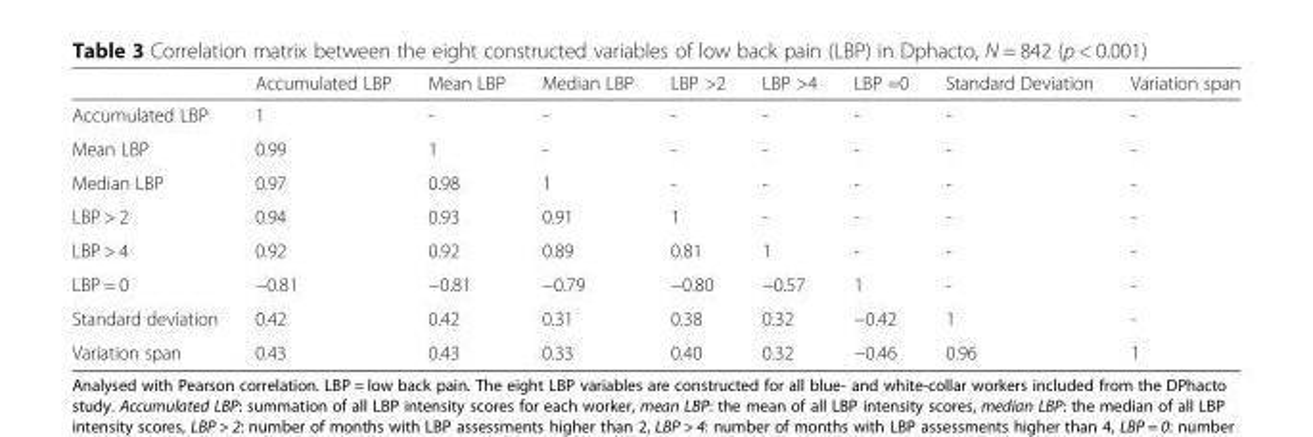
<table><thead><tr><td></td><td>Accumulated LBP</td><td>Mean LBP</td><td>Median LBP</td><td>LBP &gt;2</td><td>LBP &gt;4</td><td>LBP =0</td><td>Standard Deviation</td><td>Variation span</td></tr></thead><tbody><tr><td>Accumulated LBP</td><td>1</td><td>-</td><td>-</td><td>-</td><td>-</td><td>-</td><td>-</td><td>-</td></tr><tr><td>Mean LBP</td><td>0.99</td><td>1</td><td>-</td><td>-</td><td>-</td><td>-</td><td>-</td><td>-</td></tr><tr><td>Median LBP</td><td>0.97</td><td>0.98</td><td>1</td><td>-</td><td>-</td><td>-</td><td>-</td><td>-</td></tr><tr><td>LBP &gt; 2</td><td>0.94</td><td>0.93</td><td>0.91</td><td>1</td><td>-</td><td>-</td><td>-</td><td>-</td></tr><tr><td>LBP &gt; 4</td><td>0.92</td><td>0.92</td><td>0.89</td><td>0.81</td><td>1</td><td>-</td><td>-</td><td>-</td></tr><tr><td>LBP = 0</td><td>−0.81</td><td>−0.81</td><td>−0.79</td><td>−0.80</td><td>−0.57</td><td>1</td><td>-</td><td>-</td></tr><tr><td>Standard deviation</td><td>0.42</td><td>0.42</td><td>0.31</td><td>0.38</td><td>0.32</td><td>−0.42</td><td>1</td><td>-</td></tr><tr><td>Variation span</td><td>0.43</td><td>0.43</td><td>0.33</td><td>0.40</td><td>0.32</td><td>−0.46</td><td>0.96</td><td>1</td></tr></tbody></table>